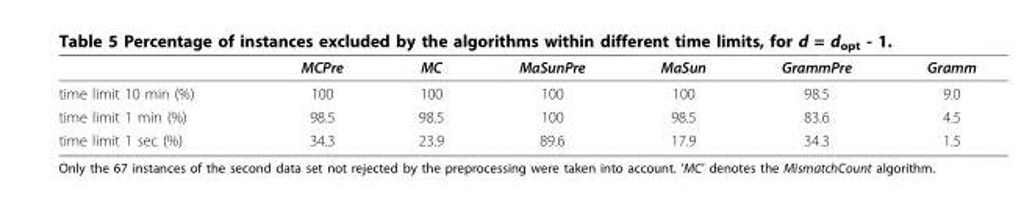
<table><thead><tr><td></td><td>MCPre</td><td>MC</td><td>MaSunPre</td><td>MaSun</td><td>GrammPre</td><td>Gramm</td></tr></thead><tbody><tr><td>time limit 10 min (%)</td><td>100</td><td>100</td><td>100</td><td>100</td><td>98.5</td><td>9.0</td></tr><tr><td>time limit 1 min (%)</td><td>98.5</td><td>98.5</td><td>100</td><td>98.5</td><td>83.6</td><td>4.5</td></tr><tr><td>time limit 1 sec (%)</td><td>34.3</td><td>23.9</td><td>89.6</td><td>17.9</td><td>34.3</td><td>1.5</td></tr></tbody></table>